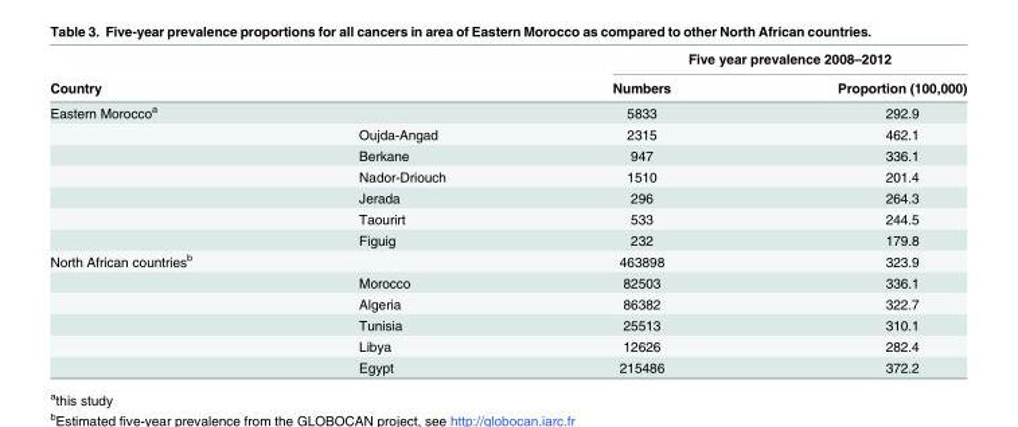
<table><thead><tr><td rowspan="2">Country</td><td rowspan="2"></td><td colspan="2">Five year prevalence 2008–2012</td></tr><tr><td>Numbers</td><td>Proportion (100,000)</td></tr></thead><tbody><tr><td rowspan="7">Eastern Morocco<sup>a</sup></td><td></td><td>5833</td><td>292.9</td></tr><tr><td>Oujda-Angad</td><td>2315</td><td>462.1</td></tr><tr><td>Berkane</td><td>947</td><td>336.1</td></tr><tr><td>Nador-Driouch</td><td>1510</td><td>201.4</td></tr><tr><td>Jerada</td><td>296</td><td>264.3</td></tr><tr><td>Taourirt</td><td>533</td><td>244.5</td></tr><tr><td>Figuig</td><td>232</td><td>179.8</td></tr><tr><td rowspan="6">North African countries<sup>b</sup></td><td></td><td>463898</td><td>323.9</td></tr><tr><td>Morocco</td><td>82503</td><td>336.1</td></tr><tr><td>Algeria</td><td>86382</td><td>322.7</td></tr><tr><td>Tunisia</td><td>25513</td><td>310.1</td></tr><tr><td>Libya</td><td>12626</td><td>282.4</td></tr><tr><td>Egypt</td><td>215486</td><td>372.2</td></tr></tbody></table>